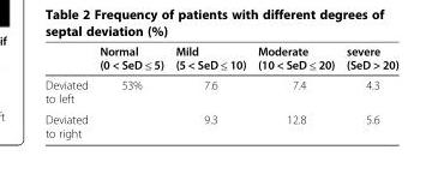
<table><thead><tr><td></td><td>Normal (0 &lt; SeD ≤ 5)</td><td>Mild (5 &lt; SeD ≤ 10)</td><td>Moderate (10 &lt; SeD ≤ 20)</td><td>severe (SeD &gt; 20)</td></tr></thead><tbody><tr><td>Deviated to left</td><td>53%</td><td>7.6</td><td>7.4</td><td>4.3</td></tr><tr><td>Deviated to right</td><td></td><td>9.3</td><td>12.8</td><td>5.6</td></tr></tbody></table>